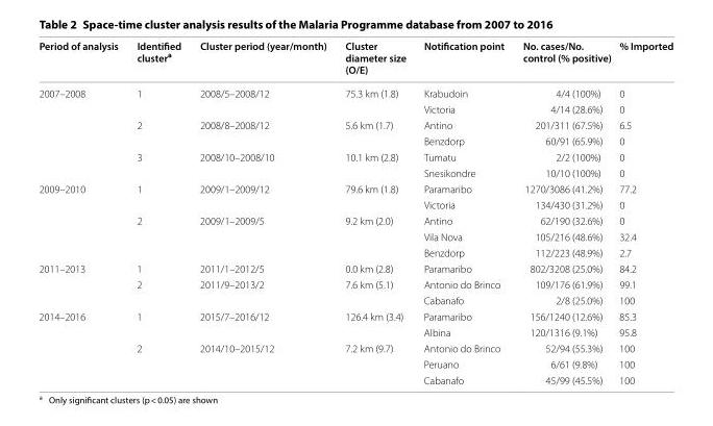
<table><thead><tr><td>Period of analysis</td><td>Identified cluster<sup>a</sup></td><td>Cluster period (year/month)</td><td>Cluster diameter size (O/E)</td><td>Notification point</td><td>No. cases/No. control (% positive)</td><td>% Imported</td></tr></thead><tbody><tr><td rowspan="6">2007–2008</td><td>1</td><td>2008/5–2008/12</td><td>75.3 km (1.8)</td><td>Krabudoin</td><td>4/4 (100%)</td><td>0</td></tr><tr><td></td><td></td><td></td><td>Victoria</td><td>4/14 (28.6%)</td><td>0</td></tr><tr><td>2</td><td>2008/8–2008/12</td><td>5.6 km (1.7)</td><td>Antino</td><td>201/311 (67.5%)</td><td>6.5</td></tr><tr><td></td><td></td><td></td><td>Benzdorp</td><td>60/91 (65.9%)</td><td>0</td></tr><tr><td>3</td><td>2008/10–2008/10</td><td>10.1 km (2.8)</td><td>Tumatu</td><td>2/2 (100%)</td><td>0</td></tr><tr><td></td><td></td><td></td><td>Snesikondre</td><td>10/10 (100%)</td><td>0</td></tr><tr><td rowspan="5">2009–2010</td><td>1</td><td>2009/1–2009/12</td><td>79.6 km (1.8)</td><td>Paramaribo</td><td>1270/3086 (41.2%)</td><td>77.2</td></tr><tr><td></td><td></td><td></td><td>Victoria</td><td>134/430 (31.2%)</td><td>0</td></tr><tr><td>2</td><td>2009/1–2009/5</td><td>9.2 km (2.0)</td><td>Antino</td><td>62/190 (32.6%)</td><td>0</td></tr><tr><td></td><td></td><td></td><td>Vila Nova</td><td>105/216 (48.6%)</td><td>32.4</td></tr><tr><td></td><td></td><td></td><td>Benzdorp</td><td>112/223 (48.9%)</td><td>2.7</td></tr><tr><td rowspan="3">2011–2013</td><td>1</td><td>2011/1–2012/5</td><td>0.0 km (2.8)</td><td>Paramaribo</td><td>802/3208 (25.0%)</td><td>84.2</td></tr><tr><td>2</td><td>2011/9–2013/2</td><td>7.6 km (5.1)</td><td>Antonio do Brinco</td><td>109/176 (61.9%)</td><td>99.1</td></tr><tr><td></td><td></td><td></td><td>Cabanafo</td><td>2/8 (25.0%)</td><td>100</td></tr><tr><td rowspan="5">2014–2016</td><td>1</td><td>2015/7–2016/12</td><td>126.4 km (3.4)</td><td>Paramaribo</td><td>156/1240 (12.6%)</td><td>85.3</td></tr><tr><td></td><td></td><td></td><td>Albina</td><td>120/1316 (9.1%)</td><td>95.8</td></tr><tr><td>2</td><td>2014/10–2015/12</td><td>7.2 km (9.7)</td><td>Antonio do Brinco</td><td>52/94 (55.3%)</td><td>100</td></tr><tr><td></td><td></td><td></td><td>Peruano</td><td>6/61 (9.8%)</td><td>100</td></tr><tr><td></td><td></td><td></td><td>Cabanafo</td><td>45/99 (45.5%)</td><td>100</td></tr></tbody></table>